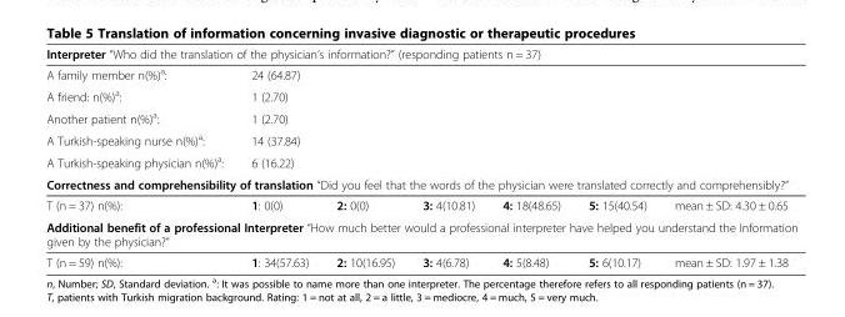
<table><thead><tr><td colspan="7">Interpreter “Who did the translation of the physician’s information?” (responding patients n = 37)</td></tr><tr><td>A family member n(%)<sup>a</sup>:</td><td>24 (64.87)</td><td></td><td></td><td></td><td></td><td></td></tr></thead><tbody><tr><td>A friend: n(%)<sup>a</sup>:</td><td>1 (2.70)</td><td></td><td></td><td></td><td></td><td></td></tr><tr><td>Another patient n(%)<sup>a</sup>:</td><td>1 (2.70)</td><td></td><td></td><td></td><td></td><td></td></tr><tr><td>A Turkish-speaking nurse n(%)<sup>a</sup>:</td><td>14 (37.84)</td><td></td><td></td><td></td><td></td><td></td></tr><tr><td>A Turkish-speaking physician n(%)<sup>a</sup>:</td><td>6 (16.22)</td><td></td><td></td><td></td><td></td><td></td></tr><tr><td colspan="7">Correctness and comprehensibility of translation “Did you feel that the words of the physician were translated correctly and comprehensibly?”</td></tr><tr><td>T (n = 37) n(%):</td><td>1: 0(0)</td><td>2: 0(0)</td><td>3: 4(10.81)</td><td>4: 18(48.65)</td><td>5: 15(40.54)</td><td>mean ± SD: 4.30 ± 0.65</td></tr><tr><td colspan="7">Additional benefit of a professional Interpreter “How much better would a professional interpreter have helped you understand the Information given by the physician?”</td></tr><tr><td>T (n = 59) n(%):</td><td>1: 34(57.63)</td><td>2: 10(16.95)</td><td>3: 4(6.78)</td><td>4: 5(8.48)</td><td>5: 6(10.17)</td><td>mean ± SD: 1.97 ± 1.38</td></tr></tbody></table>